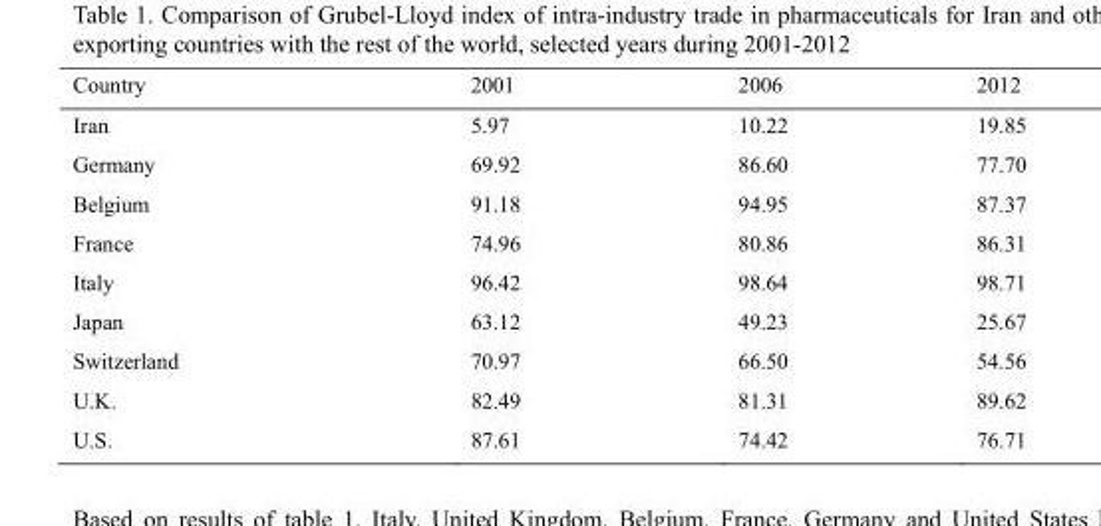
<table><thead><tr><td>Country</td><td>2001</td><td>2006</td><td>2012</td></tr></thead><tbody><tr><td>Iran</td><td>5.97</td><td>10.22</td><td>19.85</td></tr><tr><td>Germany</td><td>69.92</td><td>86.60</td><td>77.70</td></tr><tr><td>Belgium</td><td>91.18</td><td>94.95</td><td>87.37</td></tr><tr><td>France</td><td>74.96</td><td>80.86</td><td>86.31</td></tr><tr><td>Italy</td><td>96.42</td><td>98.64</td><td>98.71</td></tr><tr><td>Japan</td><td>63.12</td><td>49.23</td><td>25.67</td></tr><tr><td>Switzerland</td><td>70.97</td><td>66.50</td><td>54.56</td></tr><tr><td>U.K.</td><td>82.49</td><td>81.31</td><td>89.62</td></tr><tr><td>U.S.</td><td>87.61</td><td>74.42</td><td>76.71</td></tr></tbody></table>